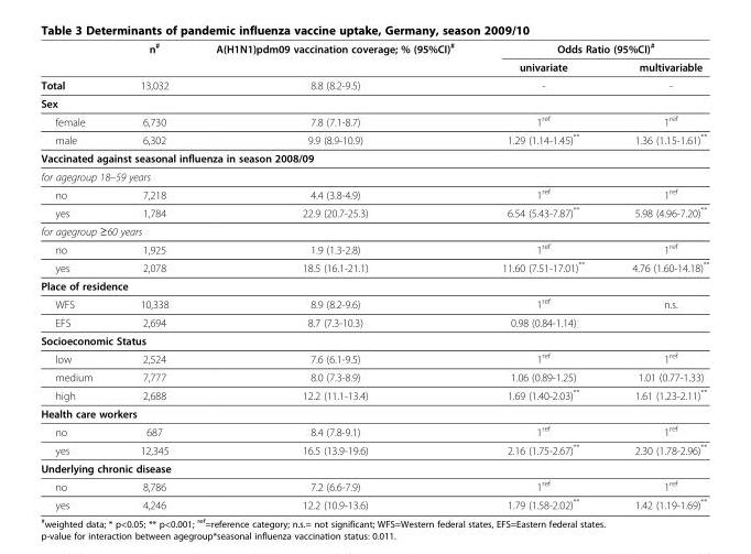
<table><thead><tr><td rowspan="2"></td><td rowspan="2">n<sup>#</sup></td><td rowspan="2">A(H1N1)pdm09 vaccination coverage; % (95%CI)<sup>#</sup></td><td colspan="2">Odds Ratio (95%CI)<sup>#</sup></td></tr><tr><td>univariate</td><td>multivariable</td></tr></thead><tbody><tr><td>Total</td><td>13,032</td><td>8.8 (8.2-9.5)</td><td>-</td><td>-</td></tr><tr><td colspan="5">Sex</td></tr><tr><td>female</td><td>6,730</td><td>7.8 (7.1-8.7)</td><td>1<sup>ref</sup></td><td>1<sup>ref</sup></td></tr><tr><td>male</td><td>6,302</td><td>9.9 (8.9-10.9)</td><td>1.29 (1.14-1.45)**</td><td>1.36 (1.15-1.61)**</td></tr><tr><td colspan="5">Vaccinated against seasonal influenza in season 2008/09</td></tr><tr><td colspan="5">for agegroup 18–59 years</td></tr><tr><td>no</td><td>7,218</td><td>4.4 (3.8-4.9)</td><td>1<sup>ref</sup></td><td>1<sup>ref</sup></td></tr><tr><td>yes</td><td>1,784</td><td>22.9 (20.7-25.3)</td><td>6.54 (5.43-7.87)**</td><td>5.98 (4.96-7.20)**</td></tr><tr><td colspan="5">for agegroup ≥60 years</td></tr><tr><td>no</td><td>1,925</td><td>1.9 (1.3-2.8)</td><td>1<sup>ref</sup></td><td>1<sup>ref</sup></td></tr><tr><td>yes</td><td>2,078</td><td>18.5 (16.1-21.1)</td><td>11.60 (7.51-17.01)**</td><td>4.76 (1.60-14.18)**</td></tr><tr><td colspan="5">Place of residence</td></tr><tr><td>WFS</td><td>10,338</td><td>8.9 (8.2-9.6)</td><td>1<sup>ref</sup></td><td>n.s.</td></tr><tr><td>EFS</td><td>2,694</td><td>8.7 (7.3-10.3)</td><td>0.98 (0.84-1.14)</td><td></td></tr><tr><td colspan="5">Socioeconomic Status</td></tr><tr><td>low</td><td>2,524</td><td>7.6 (6.1-9.5)</td><td>1<sup>ref</sup></td><td>1<sup>ref</sup></td></tr><tr><td>medium</td><td>7,777</td><td>8.0 (7.3-8.9)</td><td>1.06 (0.89-1.25)</td><td>1.01 (0.77-1.33)</td></tr><tr><td>high</td><td>2,688</td><td>12.2 (11.1-13.4)</td><td>1.69 (1.40-2.03)**</td><td>1.61 (1.23-2.11)**</td></tr><tr><td colspan="5">Health care workers</td></tr><tr><td>no</td><td>687</td><td>8.4 (7.8-9.1)</td><td>1<sup>ref</sup></td><td>1<sup>ref</sup></td></tr><tr><td>yes</td><td>12,345</td><td>16.5 (13.9-19.6)</td><td>2.16 (1.75-2.67)**</td><td>2.30 (1.78-2.96)**</td></tr><tr><td colspan="5">Underlying chronic disease</td></tr><tr><td>no</td><td>8,786</td><td>7.2 (6.6-7.9)</td><td>1<sup>ref</sup></td><td>1<sup>ref</sup></td></tr><tr><td>yes</td><td>4,246</td><td>12.2 (10.9-13.6)</td><td>1.79 (1.58-2.02)**</td><td>1.42 (1.19-1.69)**</td></tr></tbody></table>